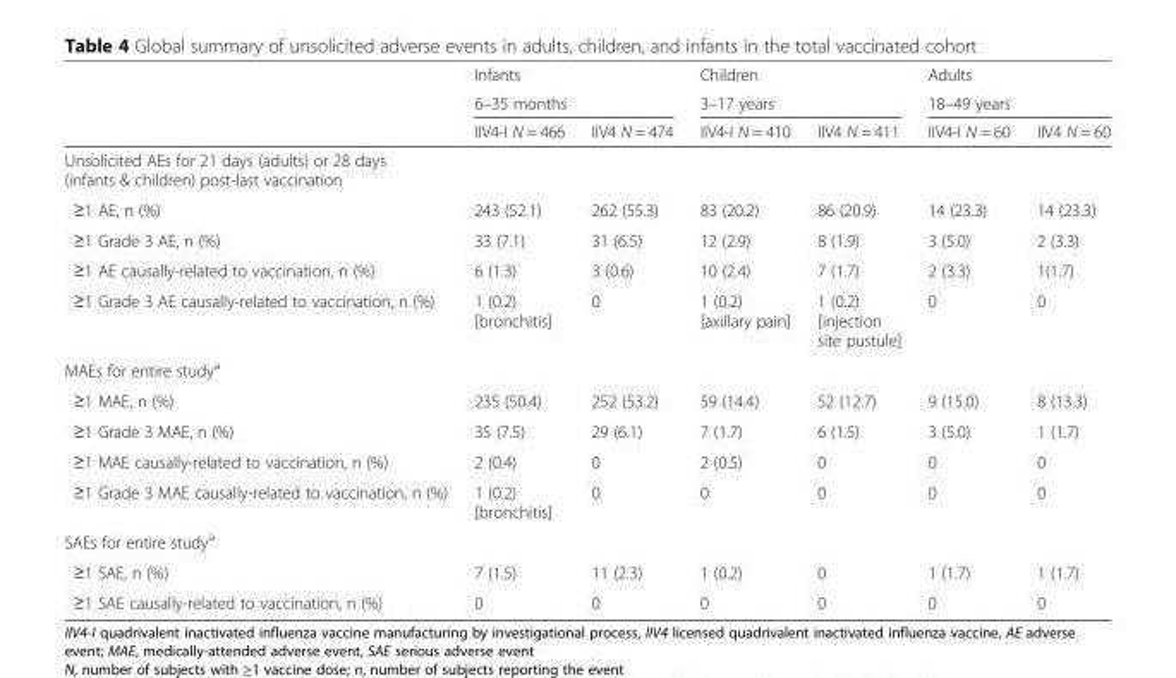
<table><thead><tr><td rowspan="3"></td><td rowspan="2" colspan="2">Infants 6–35 months</td><td rowspan="2" colspan="2">Children 3–17 years</td><td rowspan="2" colspan="2">Adults 18–49 years</td></tr><tr></tr><tr><td>IIV4-I N = 466</td><td>IIV4 N = 474</td><td>IIV4-I N = 410</td><td>IIV4 N = 411</td><td>IIV4-I N = 60</td><td>IIV4 N = 60</td></tr></thead><tbody><tr><td colspan="7">Unsolicited AEs for 21 days (adults) or 28 days (infants &amp; children) post-last vaccination</td></tr><tr><td>≥1 AE, n (%)</td><td>243 (52.1)</td><td>262 (55.3)</td><td>83 (20.2)</td><td>86 (20.9)</td><td>14 (23.3)</td><td>14 (23.3)</td></tr><tr><td>≥1 Grade 3 AE, n (%)</td><td>33 (7.1)</td><td>31 (6.5)</td><td>12 (2.9)</td><td>8 (1.9)</td><td>3 (5.0)</td><td>2 (3.3)</td></tr><tr><td>≥1 AE causally-related to vaccination, n (%)</td><td>6 (1.3)</td><td>3 (0.6)</td><td>10 (2.4)</td><td>7 (1.7)</td><td>2 (3.3)</td><td>1(1.7)</td></tr><tr><td>≥1 Grade 3 AE causally-related to vaccination, n (%)</td><td>1 (0.2) [bronchitis]</td><td>0</td><td>1 (0.2) [axillary pain]</td><td>1 (0.2) [injection site pustule]</td><td>0</td><td>0</td></tr><tr><td colspan="7">MAEs for entire study<sup>a</sup></td></tr><tr><td>≥1 MAE, n (%)</td><td>235 (50.4)</td><td>252 (53.2)</td><td>59 (14.4)</td><td>52 (12.7)</td><td>9 (15.0)</td><td>8 (13.3)</td></tr><tr><td>≥1 Grade 3 MAE, n (%)</td><td>35 (7.5)</td><td>29 (6.1)</td><td>7 (1.7)</td><td>6 (1.5)</td><td>3 (5.0)</td><td>1 (1.7)</td></tr><tr><td>≥1 MAE causally-related to vaccination, n (%)</td><td>2 (0.4)</td><td>0</td><td>2 (0.5)</td><td>0</td><td>0</td><td>0</td></tr><tr><td>≥1 Grade 3 MAE causally-related to vaccination, n (%)</td><td>1 (0.2) [bronchitis]</td><td>0</td><td>0</td><td>0</td><td>0</td><td>0</td></tr><tr><td colspan="7">SAEs for entire study<sup>a</sup></td></tr><tr><td>≥1 SAE, n (%)</td><td>7 (1.5)</td><td>11 (2.3)</td><td>1 (0.2)</td><td>0</td><td>1 (1.7)</td><td>1 (1.7)</td></tr><tr><td>≥1 SAE causally-related to vaccination, n (%)</td><td>0</td><td>0</td><td>0</td><td>0</td><td>0</td><td>0</td></tr></tbody></table>